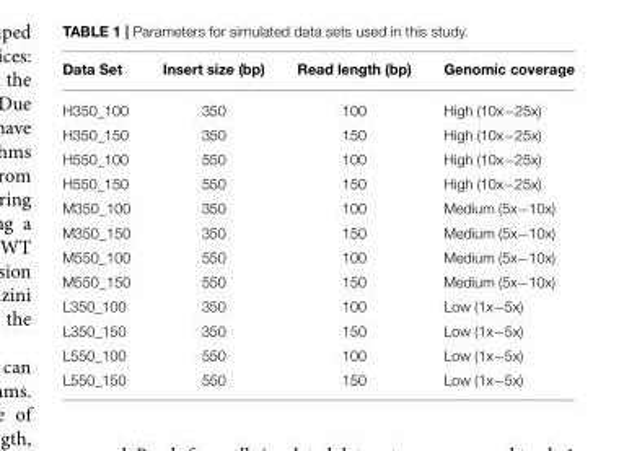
<table><thead><tr><td>Data Set</td><td>Insert size (bp)</td><td>Read length (bp)</td><td>Genomic coverage</td></tr></thead><tbody><tr><td>H350_100</td><td>350</td><td>100</td><td>High (10x−25x)</td></tr><tr><td>H350_150</td><td>350</td><td>150</td><td>High (10x−25x)</td></tr><tr><td>H550_100</td><td>550</td><td>100</td><td>High (10x−25x)</td></tr><tr><td>H550_150</td><td>550</td><td>150</td><td>High (10x−25x)</td></tr><tr><td>M350_100</td><td>350</td><td>100</td><td>Medium (5x−10x)</td></tr><tr><td>M350_150</td><td>350</td><td>150</td><td>Medium (5x−10x)</td></tr><tr><td>M550_100</td><td>550</td><td>100</td><td>Medium (5x−10x)</td></tr><tr><td>M550_150</td><td>550</td><td>150</td><td>Medium (5x−10x)</td></tr><tr><td>L350_100</td><td>350</td><td>100</td><td>Low (1x−5x)</td></tr><tr><td>L350_150</td><td>350</td><td>150</td><td>Low (1x−5x)</td></tr><tr><td>L550_100</td><td>550</td><td>100</td><td>Low (1x−5x)</td></tr><tr><td>L550_150</td><td>550</td><td>150</td><td>Low (1x−5x)</td></tr></tbody></table>